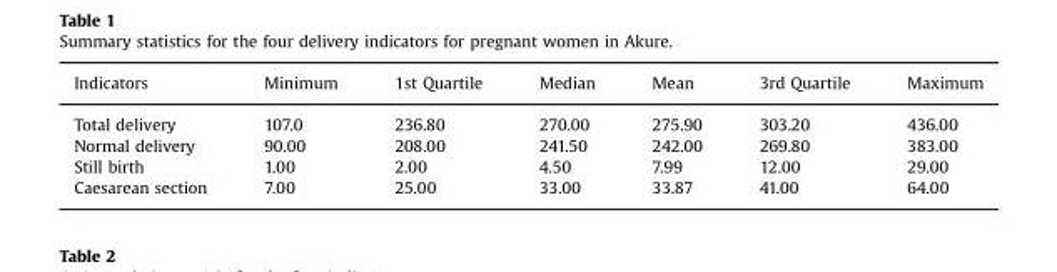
<table><thead><tr><td>Indicators</td><td>Minimum</td><td>1st Quartile</td><td>Median</td><td>Mean</td><td>3rd Quartile</td><td>Maximum</td></tr></thead><tbody><tr><td>Total delivery</td><td>107.0</td><td>236.80</td><td>270.00</td><td>275.90</td><td>303.20</td><td>436.00</td></tr><tr><td>Normal delivery</td><td>90.00</td><td>208.00</td><td>241.50</td><td>242.00</td><td>269.80</td><td>383.00</td></tr><tr><td>Still birth</td><td>1.00</td><td>2.00</td><td>4.50</td><td>7.99</td><td>12.00</td><td>29.00</td></tr><tr><td>Caesarean section</td><td>7.00</td><td>25.00</td><td>33.00</td><td>33.87</td><td>41.00</td><td>64.00</td></tr></tbody></table>